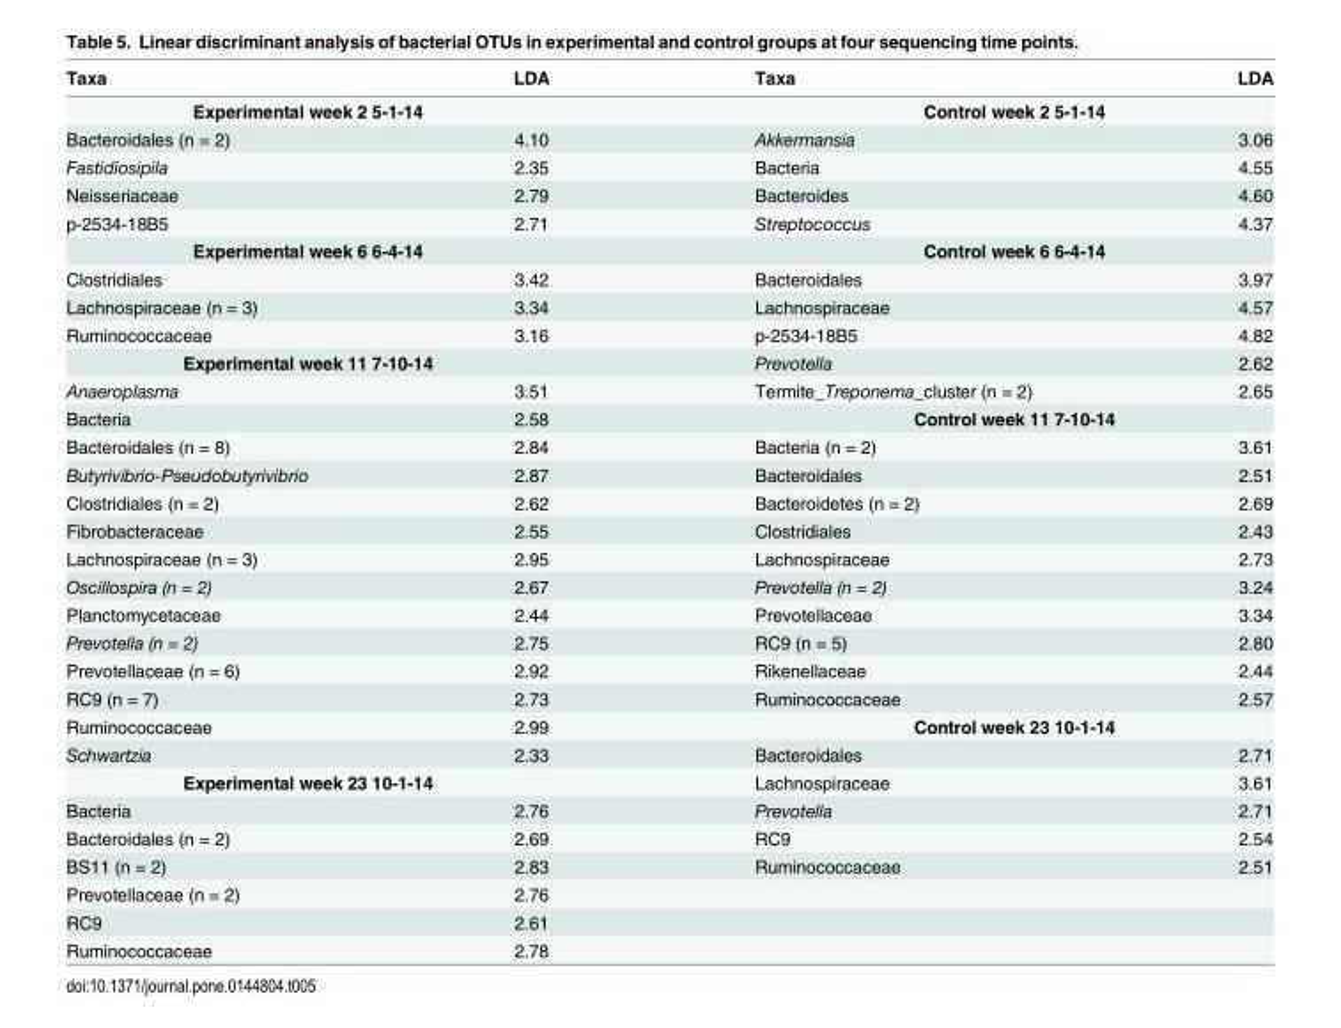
<table><thead><tr><td>Taxa</td><td>LDA</td><td>Taxa</td><td>LDA</td></tr></thead><tbody><tr><td colspan="2">Experimental week 2 5-1-14</td><td colspan="2">Control week 2 5-1-14</td></tr><tr><td>Bacteroidales (n = 2)</td><td>4.10</td><td>Akkermansia</td><td>3.06</td></tr><tr><td>Fastidiosipila</td><td>2.35</td><td>Bacteria</td><td>4.55</td></tr><tr><td>Neisseriaceae</td><td>2.79</td><td>Bacteroides</td><td>4.60</td></tr><tr><td>p-2534-18B5</td><td>2.71</td><td>Streptococcus</td><td>4.37</td></tr><tr><td colspan="2">Experimental week 6 6-4-14</td><td colspan="2">Control week 6 6-4-14</td></tr><tr><td>Clostridiales</td><td>3.42</td><td>Bacteroidales</td><td>3.97</td></tr><tr><td>Lachnospiraceae (n = 3)</td><td>3.34</td><td>Lachnospiraceae</td><td>4.57</td></tr><tr><td>Ruminococcaceae</td><td>3.16</td><td>p-2534-18B5</td><td>4.82</td></tr><tr><td colspan="2">Experimental week 11 7-10-14</td><td>Prevotella</td><td>2.62</td></tr><tr><td>Anaeroplasma</td><td>3.51</td><td>Termite_Treponema_cluster (n = 2)</td><td>2.65</td></tr><tr><td>Bacteria</td><td>2.58</td><td colspan="2">Control week 11 7-10-14</td></tr><tr><td>Bacteroidales (n = 8)</td><td>2.84</td><td>Bacteria (n = 2)</td><td>3.61</td></tr><tr><td>Butyrivibrio-Pseudobutyrivibrio</td><td>2.87</td><td>Bacteroidales</td><td>2.51</td></tr><tr><td>Clostridiales (n = 2)</td><td>2.62</td><td>Bacteroidetes (n = 2)</td><td>2.69</td></tr><tr><td>Fibrobacteraceae</td><td>2.55</td><td>Clostridiales</td><td>2.43</td></tr><tr><td>Lachnospiraceae (n = 3)</td><td>2.95</td><td>Lachnospiraceae</td><td>2.73</td></tr><tr><td>Oscillospira (n = 2)</td><td>2.67</td><td>Prevotella (n = 2)</td><td>3.24</td></tr><tr><td>Planctomycetaceae</td><td>2.44</td><td>Prevotellaceae</td><td>3.34</td></tr><tr><td>Prevotella (n = 2)</td><td>2.75</td><td>RC9 (n = 5)</td><td>2.80</td></tr><tr><td>Prevotellaceae (n = 6)</td><td>2.92</td><td>Rikenellaceae</td><td>2.44</td></tr><tr><td>RC9 (n = 7)</td><td>2.73</td><td>Ruminococcaceae</td><td>2.57</td></tr><tr><td>Ruminococcaceae</td><td>2.99</td><td colspan="2">Control week 23 10-1-14</td></tr><tr><td>Schwartzia</td><td>2.33</td><td>Bacteroidales</td><td>2.71</td></tr><tr><td colspan="2">Experimental week 23 10-1-14</td><td>Lachnospiraceae</td><td>3.61</td></tr><tr><td>Bacteria</td><td>2.76</td><td>Prevotella</td><td>2.71</td></tr><tr><td>Bacteroidales (n = 2)</td><td>2.69</td><td>RC9</td><td>2.54</td></tr><tr><td>BS11 (n = 2)</td><td>2.83</td><td>Ruminococcaceae</td><td>2.51</td></tr><tr><td>Prevotellaceae (n = 2)</td><td>2.76</td><td></td><td></td></tr><tr><td>RC9</td><td>2.61</td><td></td><td></td></tr><tr><td>Ruminococcaceae</td><td>2.78</td><td></td><td></td></tr></tbody></table>